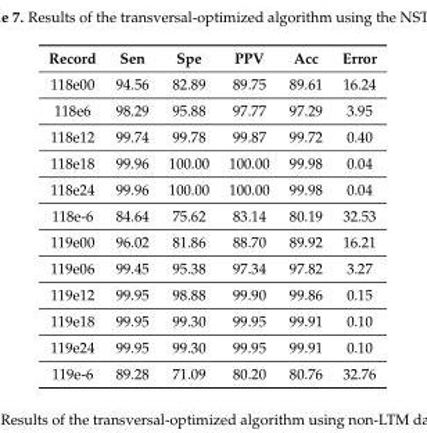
<table><thead><tr><td>Record</td><td>Sen</td><td>Spe</td><td>PPV</td><td>Acc</td><td>Error</td></tr></thead><tbody><tr><td>118e00</td><td>94.56</td><td>82.89</td><td>89.75</td><td>89.61</td><td>16.24</td></tr><tr><td>118e6</td><td>98.29</td><td>95.88</td><td>97.77</td><td>97.29</td><td>3.95</td></tr><tr><td>118e12</td><td>99.74</td><td>99.78</td><td>99.87</td><td>99.72</td><td>0.40</td></tr><tr><td>118e18</td><td>99.96</td><td>100.00</td><td>100.00</td><td>99.98</td><td>0.04</td></tr><tr><td>118e24</td><td>99.96</td><td>100.00</td><td>100.00</td><td>99.98</td><td>0.04</td></tr><tr><td>118e-6</td><td>84.64</td><td>75.62</td><td>83.14</td><td>80.19</td><td>32.53</td></tr><tr><td>119e00</td><td>96.02</td><td>81.86</td><td>88.70</td><td>89.92</td><td>16.21</td></tr><tr><td>119e06</td><td>99.45</td><td>95.38</td><td>97.34</td><td>97.82</td><td>3.27</td></tr><tr><td>119e12</td><td>99.95</td><td>98.88</td><td>99.90</td><td>99.86</td><td>0.15</td></tr><tr><td>119e18</td><td>99.95</td><td>99.30</td><td>99.95</td><td>99.91</td><td>0.10</td></tr><tr><td>119e24</td><td>99.95</td><td>99.30</td><td>99.95</td><td>99.91</td><td>0.10</td></tr><tr><td>119e-6</td><td>89.28</td><td>71.09</td><td>80.20</td><td>80.76</td><td>32.76</td></tr></tbody></table>